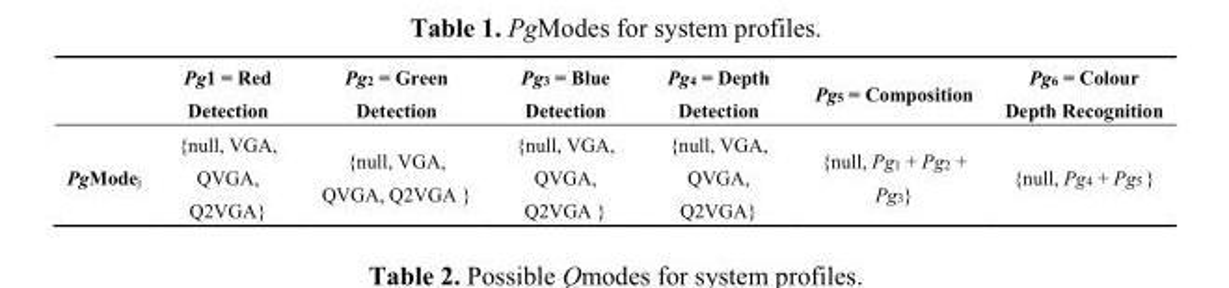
<table><thead><tr><td></td><td>Pg1 = Red Detection</td><td>Pg<sub>2</sub> = Green Detection</td><td>Pg<sub>3</sub> = Blue Detection</td><td>Pg<sub>4</sub> = Depth Detection</td><td>Pg<sub>5</sub> = Composition</td><td>Pg<sub>6</sub> = Colour Depth Recognition</td></tr></thead><tbody><tr><td>PgMode<sub>j</sub></td><td>{null, VGA, QVGA, Q2VGA}</td><td>{null, VGA, QVGA, Q2VGA }</td><td>{null, VGA, QVGA, Q2VGA }</td><td>{null, VGA, QVGA, Q2VGA}</td><td>{null, Pg<sub>1</sub> + Pg<sub>2</sub> + Pg<sub>3</sub>}</td><td>{null, Pg<sub>4</sub> + Pg<sub>5</sub> }</td></tr></tbody></table>